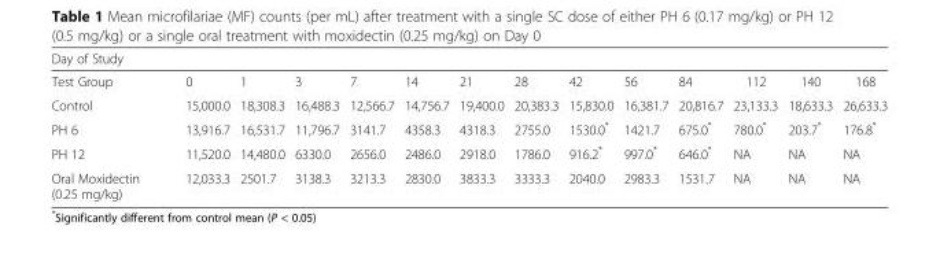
<table><thead><tr><td colspan="14">Day of Study</td></tr><tr><td>Test Group</td><td>0</td><td>1</td><td>3</td><td>7</td><td>14</td><td>21</td><td>28</td><td>42</td><td>56</td><td>84</td><td>112</td><td>140</td><td>168</td></tr></thead><tbody><tr><td>Control</td><td>15,000.0</td><td>18,308.3</td><td>16,488.3</td><td>12,566.7</td><td>14,756.7</td><td>19,400.0</td><td>20,383.3</td><td>15,830.0</td><td>16,381.7</td><td>20,816.7</td><td>23,133.3</td><td>18,633.3</td><td>26,633.3</td></tr><tr><td>PH 6</td><td>13,916.7</td><td>16,531.7</td><td>11,796.7</td><td>3141.7</td><td>4358.3</td><td>4318.3</td><td>2755.0</td><td>1530.0*</td><td>1421.7</td><td>675.0*</td><td>780.0*</td><td>203.7*</td><td>176.8*</td></tr><tr><td>PH 12</td><td>11,520.0</td><td>14,480.0</td><td>6330.0</td><td>2656.0</td><td>2486.0</td><td>2918.0</td><td>1786.0</td><td>916.2*</td><td>997.0*</td><td>646.0*</td><td>NA</td><td>NA</td><td>NA</td></tr><tr><td>Oral Moxidectin (0.25 mg/kg)</td><td>12,033.3</td><td>2501.7</td><td>3138.3</td><td>3213.3</td><td>2830.0</td><td>3833.3</td><td>3333.3</td><td>2040.0</td><td>2983.3</td><td>1531.7</td><td>NA</td><td>NA</td><td>NA</td></tr></tbody></table>